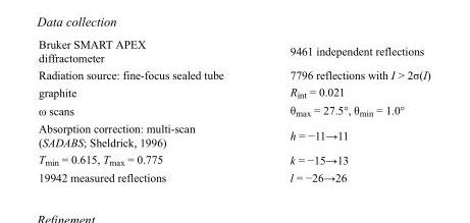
<table><tbody><tr><td>Bruker SMART APEX diffractometer</td><td>9461 independent reflections</td></tr><tr><td>Radiation source: fine-focus sealed tube</td><td>7796 reflections with I &gt; 2σ(I)</td></tr><tr><td>graphite</td><td>R<sub>int</sub> = 0.021</td></tr><tr><td>ω scans</td><td>θ<sub>max</sub> = 27.5°, θ<sub>min</sub> = 1.0°</td></tr><tr><td>Absorption correction: multi-scan (SADABS; Sheldrick, 1996)</td><td>h = −11→11</td></tr><tr><td>T<sub>min</sub> = 0.615, T<sub>max</sub> = 0.775</td><td>k = −15→13</td></tr><tr><td>19942 measured reflections</td><td>l = −26→26</td></tr></tbody></table>